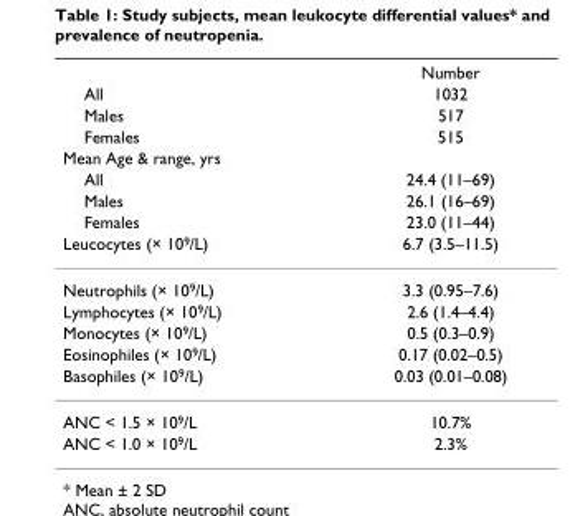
<table><thead><tr><td rowspan="9">All Males Females Mean Age &amp; range, yrs All Males Females Leucocytes (× 109/L)</td><td rowspan="9">Number 1032 517 515 24.4 (11–69) 26.1 (16–69) 23.0 (11–44) 6.7 (3.5–11.5)</td></tr><tr></tr><tr></tr><tr></tr><tr></tr><tr></tr><tr></tr><tr></tr><tr></tr></thead><tbody><tr><td>Neutrophils (× 10<sup>9</sup>/L)</td><td>3.3 (0.95–7.6)</td></tr><tr><td>Lymphocytes (× 10<sup>9</sup>/L)</td><td>2.6 (1.4–4.4)</td></tr><tr><td>Monocytes (× 10<sup>9</sup>/L)</td><td>0.5 (0.3–0.9)</td></tr><tr><td>Eosinophiles (× 10<sup>9</sup>/L)</td><td>0.17 (0.02–0.5)</td></tr><tr><td>Basophiles (× 10<sup>9</sup>/L)</td><td>0.03 (0.01–0.08)</td></tr><tr><td>ANC &lt; 1.5 × 10<sup>9</sup>/L</td><td>10.7%</td></tr><tr><td>ANC &lt; 1.0 × 10<sup>9</sup>/L</td><td>2.3%</td></tr></tbody></table>